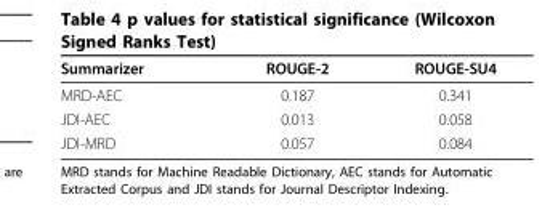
<table><thead><tr><td>Summarizer</td><td>ROUGE-2</td><td>ROUGE-SU4</td></tr></thead><tbody><tr><td>MRD-AEC</td><td>0.187</td><td>0.341</td></tr><tr><td>JDI-AEC</td><td>0.013</td><td>0.058</td></tr><tr><td>JDI-MRD</td><td>0.057</td><td>0.084</td></tr></tbody></table>